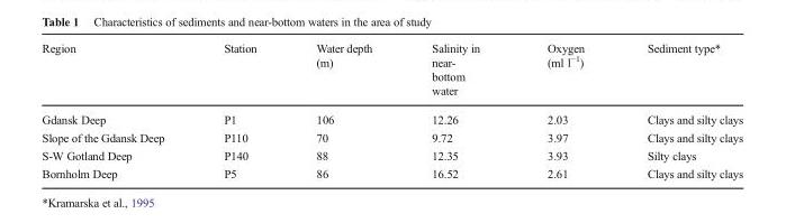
<table><thead><tr><td>Region</td><td>Station</td><td>Water depth (m)</td><td>Salinity in near- bottom water</td><td>Oxygen (ml l<sup>−1</sup>)</td><td>Sediment type*</td></tr></thead><tbody><tr><td>Gdansk Deep</td><td>P1</td><td>106</td><td>12.26</td><td>2.03</td><td>Clays and silty clays</td></tr><tr><td>Slope of the Gdansk Deep</td><td>P110</td><td>70</td><td>9.72</td><td>3.97</td><td>Clays and silty clays</td></tr><tr><td>S-W Gotland Deep</td><td>P140</td><td>88</td><td>12.35</td><td>3.93</td><td>Silty clays</td></tr><tr><td>Bornholm Deep</td><td>P5</td><td>86</td><td>16.52</td><td>2.61</td><td>Clays and silty clays</td></tr></tbody></table>